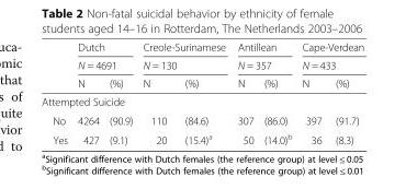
<table><thead><tr><td rowspan="3"></td><td rowspan="2" colspan="2">Dutch N = 4691</td><td rowspan="2" colspan="2">Creole-Surinamese N = 130</td><td rowspan="2" colspan="2">Antillean N = 357</td><td rowspan="2" colspan="2">Cape-Verdean N = 433</td></tr><tr></tr><tr><td>N</td><td>(%)</td><td>N</td><td>(%)</td><td>N</td><td>(%)</td><td>N</td><td>(%)</td></tr></thead><tbody><tr><td colspan="9">Attempted Suicide</td></tr><tr><td>No</td><td>4264</td><td>(90.9)</td><td>110</td><td>(84.6)</td><td>307</td><td>(86.0)</td><td>397</td><td>(91.7)</td></tr><tr><td>Yes</td><td>427</td><td>(9.1)</td><td>20</td><td>(15.4)<sup>a</sup></td><td>50</td><td>(14.0)<sup>b</sup></td><td>36</td><td>(8.3)</td></tr></tbody></table>